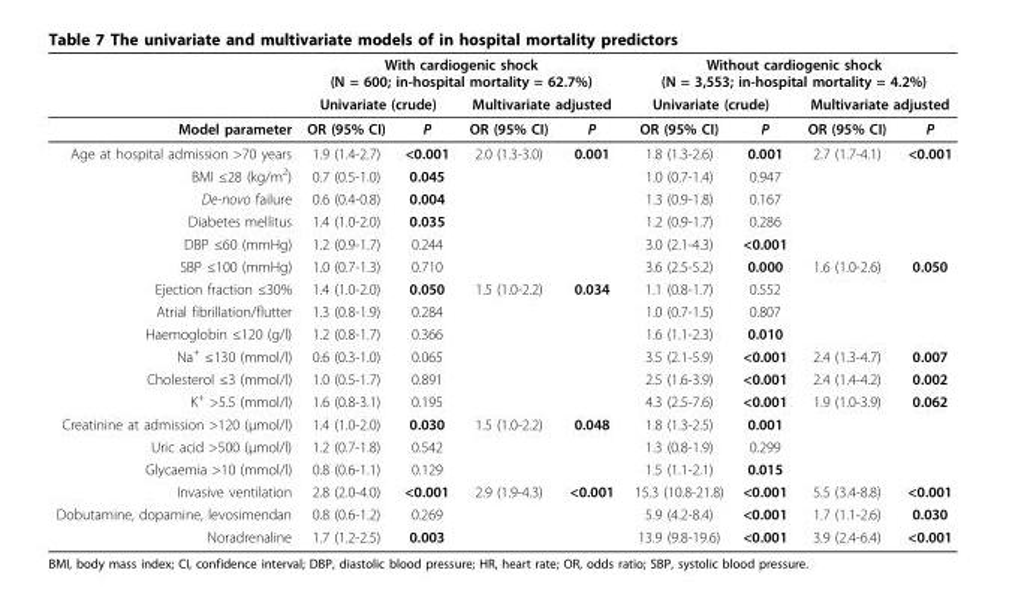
<table><thead><tr><td rowspan="3">Model parameter</td><td colspan="4">With cardiogenic shock (N = 600; in-hospital mortality = 62.7%)</td><td colspan="4">Without cardiogenic shock (N = 3,553; in-hospital mortality = 4.2%)</td></tr><tr><td colspan="2">Univariate (crude)</td><td colspan="2">Multivariate adjusted</td><td colspan="2">Univariate (crude)</td><td colspan="2">Multivariate adjusted</td></tr><tr><td>OR (95% CI)</td><td>P</td><td>OR (95% CI)</td><td>P</td><td>OR (95% CI)</td><td>P</td><td>OR (95% CI)</td><td>P</td></tr></thead><tbody><tr><td>Age at hospital admission &gt;70 years</td><td>1.9 (1.4-2.7)</td><td>&lt;0.001</td><td>2.0 (1.3-3.0)</td><td>0.001</td><td>1.8 (1.3-2.6)</td><td>0.001</td><td>2.7 (1.7-4.1)</td><td>&lt;0.001</td></tr><tr><td>BMI ≤28 (kg/m<sup>2</sup>)</td><td>0.7 (0.5-1.0)</td><td>0.045</td><td></td><td></td><td>1.0 (0.7-1.4)</td><td>0.947</td><td></td><td></td></tr><tr><td>De-novo failure</td><td>0.6 (0.4-0.8)</td><td>0.004</td><td></td><td></td><td>1.3 (0.9-1.8)</td><td>0.167</td><td></td><td></td></tr><tr><td>Diabetes mellitus</td><td>1.4 (1.0-2.0)</td><td>0.035</td><td></td><td></td><td>1.2 (0.9-1.7)</td><td>0.286</td><td></td><td></td></tr><tr><td>DBP ≤60 (mmHg)</td><td>1.2 (0.9-1.7)</td><td>0.244</td><td></td><td></td><td>3.0 (2.1-4.3)</td><td>&lt;0.001</td><td></td><td></td></tr><tr><td>SBP ≤100 (mmHg)</td><td>1.0 (0.7-1.3)</td><td>0.710</td><td></td><td></td><td>3.6 (2.5-5.2)</td><td>0.000</td><td>1.6 (1.0-2.6)</td><td>0.050</td></tr><tr><td>Ejection fraction ≤30%</td><td>1.4 (1.0-2.0)</td><td>0.050</td><td>1.5 (1.0-2.2)</td><td>0.034</td><td>1.1 (0.8-1.7)</td><td>0.552</td><td></td><td></td></tr><tr><td>Atrial fibrillation/flutter</td><td>1.3 (0.8-1.9)</td><td>0.284</td><td></td><td></td><td>1.0 (0.7-1.5)</td><td>0.807</td><td></td><td></td></tr><tr><td>Haemoglobin ≤120 (g/l)</td><td>1.2 (0.8-1.7)</td><td>0.366</td><td></td><td></td><td>1.6 (1.1-2.3)</td><td>0.010</td><td></td><td></td></tr><tr><td>Na<sup>+</sup> ≤130 (mmol/l)</td><td>0.6 (0.3-1.0)</td><td>0.065</td><td></td><td></td><td>3.5 (2.1-5.9)</td><td>&lt;0.001</td><td>2.4 (1.3-4.7)</td><td>0.007</td></tr><tr><td>Cholesterol ≤3 (mmol/l)</td><td>1.0 (0.5-1.7)</td><td>0.891</td><td></td><td></td><td>2.5 (1.6-3.9)</td><td>&lt;0.001</td><td>2.4 (1.4-4.2)</td><td>0.002</td></tr><tr><td>K<sup>+</sup> &gt;5.5 (mmol/l)</td><td>1.6 (0.8-3.1)</td><td>0.195</td><td></td><td></td><td>4.3 (2.5-7.6)</td><td>&lt;0.001</td><td>1.9 (1.0-3.9)</td><td>0.062</td></tr><tr><td>Creatinine at admission &gt;120 (μmol/l)</td><td>1.4 (1.0-2.0)</td><td>0.030</td><td>1.5 (1.0-2.2)</td><td>0.048</td><td>1.8 (1.3-2.5)</td><td>0.001</td><td></td><td></td></tr><tr><td>Uric acid &gt;500 (μmol/l)</td><td>1.2 (0.7-1.8)</td><td>0.542</td><td></td><td></td><td>1.3 (0.8-1.9)</td><td>0.299</td><td></td><td></td></tr><tr><td>Glycaemia &gt;10 (mmol/l)</td><td>0.8 (0.6-1.1)</td><td>0.129</td><td></td><td></td><td>1.5 (1.1-2.1)</td><td>0.015</td><td></td><td></td></tr><tr><td>Invasive ventilation</td><td>2.8 (2.0-4.0)</td><td>&lt;0.001</td><td>2.9 (1.9-4.3)</td><td>&lt;0.001</td><td>15.3 (10.8-21.8)</td><td>&lt;0.001</td><td>5.5 (3.4-8.8)</td><td>&lt;0.001</td></tr><tr><td>Dobutamine, dopamine, levosimendan</td><td>0.8 (0.6-1.2)</td><td>0.269</td><td></td><td></td><td>5.9 (4.2-8.4)</td><td>&lt;0.001</td><td>1.7 (1.1-2.6)</td><td>0.030</td></tr><tr><td>Noradrenaline</td><td>1.7 (1.2-2.5)</td><td>0.003</td><td></td><td></td><td>13.9 (9.8-19.6)</td><td>&lt;0.001</td><td>3.9 (2.4-6.4)</td><td>&lt;0.001</td></tr></tbody></table>